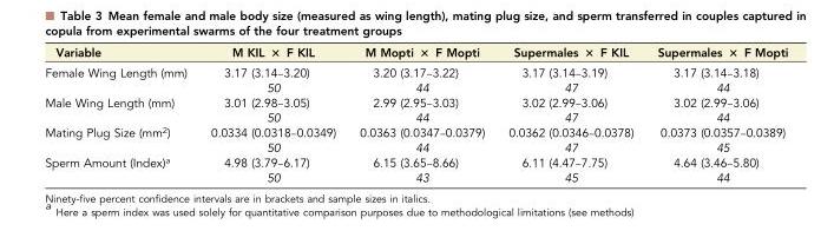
<table><thead><tr><td>Variable</td><td>M KIL × F KIL</td><td>M Mopti × F Mopti</td><td>Supermales × F KIL</td><td>Supermales × F Mopti</td></tr></thead><tbody><tr><td rowspan="2">Female Wing Length (mm)</td><td>3.17 (3.14–3.20)</td><td>3.20 (3.17–3.22)</td><td>3.17 (3.14–3.19)</td><td>3.17 (3.14–3.18)</td></tr><tr><td>50</td><td>44</td><td>47</td><td>44</td></tr><tr><td rowspan="2">Male Wing Length (mm)</td><td>3.01 (2.98–3.05)</td><td>2.99 (2.95–3.03)</td><td>3.02 (2.99–3.06)</td><td>3.02 (2.99–3.06)</td></tr><tr><td>50</td><td>44</td><td>47</td><td>44</td></tr><tr><td rowspan="2">Mating Plug Size (mm<sup>2</sup>)</td><td>0.0334 (0.0318–0.0349)</td><td>0.0363 (0.0347–0.0379)</td><td>0.0362 (0.0346–0.0378)</td><td>0.0373 (0.0357–0.0389)</td></tr><tr><td>50</td><td>44</td><td>47</td><td>45</td></tr><tr><td rowspan="2">Sperm Amount (Index)<sup>a</sup></td><td>4.98 (3.79–6.17)</td><td>6.15 (3.65–8.66)</td><td>6.11 (4.47–7.75)</td><td>4.64 (3.46–5.80)</td></tr><tr><td>50</td><td>43</td><td>45</td><td>44</td></tr></tbody></table>